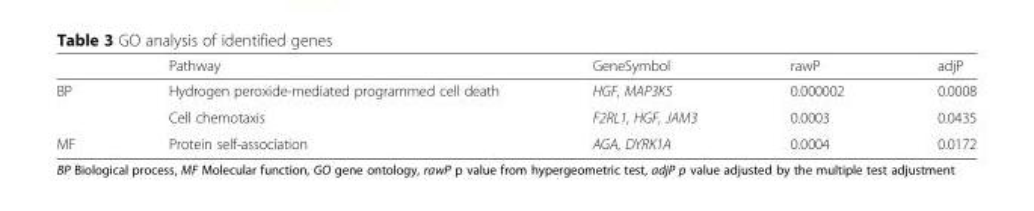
<table><thead><tr><td></td><td>Pathway</td><td>GeneSymbol</td><td>rawP</td><td>adjP</td></tr></thead><tbody><tr><td rowspan="2">BP</td><td>Hydrogen peroxide-mediated programmed cell death</td><td>HGF, MAP3K5</td><td>0.000002</td><td>0.0008</td></tr><tr><td>Cell chemotaxis</td><td>F2RL1, HGF, JAM3</td><td>0.0003</td><td>0.0435</td></tr><tr><td>MF</td><td>Protein self-association</td><td>AGA, DYRK1A</td><td>0.0004</td><td>0.0172</td></tr></tbody></table>